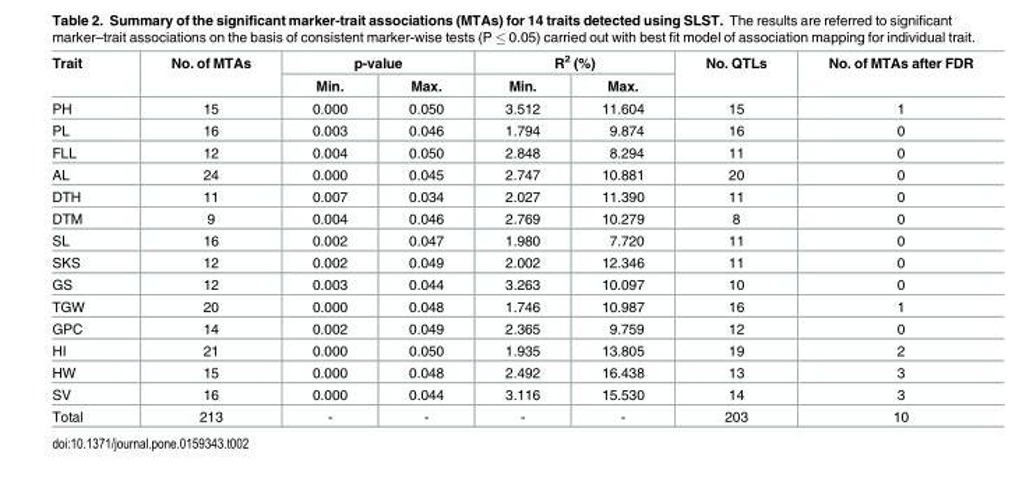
<table><thead><tr><td rowspan="2">Trait</td><td rowspan="2">No. of MTAs</td><td colspan="2">p-value</td><td colspan="2">R<sup>2</sup> (%)</td><td rowspan="2">No. QTLs</td><td rowspan="2">No. of MTAs after FDR</td></tr><tr><td>Min.</td><td>Max.</td><td>Min.</td><td>Max.</td></tr></thead><tbody><tr><td>PH</td><td>15</td><td>0.000</td><td>0.050</td><td>3.512</td><td>11.604</td><td>15</td><td>1</td></tr><tr><td>PL</td><td>16</td><td>0.003</td><td>0.046</td><td>1.794</td><td>9.874</td><td>16</td><td>0</td></tr><tr><td>FLL</td><td>12</td><td>0.004</td><td>0.050</td><td>2.848</td><td>8.294</td><td>11</td><td>0</td></tr><tr><td>AL</td><td>24</td><td>0.000</td><td>0.045</td><td>2.747</td><td>10.881</td><td>20</td><td>0</td></tr><tr><td>DTH</td><td>11</td><td>0.007</td><td>0.034</td><td>2.027</td><td>11.390</td><td>11</td><td>0</td></tr><tr><td>DTM</td><td>9</td><td>0.004</td><td>0.046</td><td>2.769</td><td>10.279</td><td>8</td><td>0</td></tr><tr><td>SL</td><td>16</td><td>0.002</td><td>0.047</td><td>1.980</td><td>7.720</td><td>11</td><td>0</td></tr><tr><td>SKS</td><td>12</td><td>0.002</td><td>0.049</td><td>2.002</td><td>12.346</td><td>11</td><td>0</td></tr><tr><td>GS</td><td>12</td><td>0.003</td><td>0.044</td><td>3.263</td><td>10.097</td><td>10</td><td>0</td></tr><tr><td>TGW</td><td>20</td><td>0.000</td><td>0.048</td><td>1.746</td><td>10.987</td><td>16</td><td>1</td></tr><tr><td>GPC</td><td>14</td><td>0.002</td><td>0.049</td><td>2.365</td><td>9.759</td><td>12</td><td>0</td></tr><tr><td>HI</td><td>21</td><td>0.000</td><td>0.050</td><td>1.935</td><td>13.805</td><td>19</td><td>2</td></tr><tr><td>HW</td><td>15</td><td>0.000</td><td>0.048</td><td>2.492</td><td>16.438</td><td>13</td><td>3</td></tr><tr><td>SV</td><td>16</td><td>0.000</td><td>0.044</td><td>3.116</td><td>15.530</td><td>14</td><td>3</td></tr><tr><td>Total</td><td>213</td><td>-</td><td>-</td><td>-</td><td>-</td><td>203</td><td>10</td></tr></tbody></table>